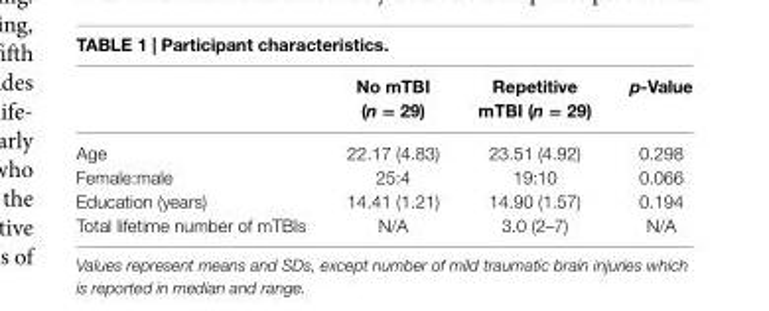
<table><thead><tr><td></td><td>no mTBi (n = 29)</td><td>repetitive mTBi (n = 29)</td><td>p-Value</td></tr></thead><tbody><tr><td>Age</td><td>22.17 (4.83)</td><td>23.51 (4.92)</td><td>0.298</td></tr><tr><td>Female:male</td><td>25:4</td><td>19:10</td><td>0.066</td></tr><tr><td>Education (years)</td><td>14.41 (1.21)</td><td>14.90 (1.57)</td><td>0.194</td></tr><tr><td>Total lifetime number of mTBIs</td><td>N/A</td><td>3.0 (2–7)</td><td>N/A</td></tr></tbody></table>